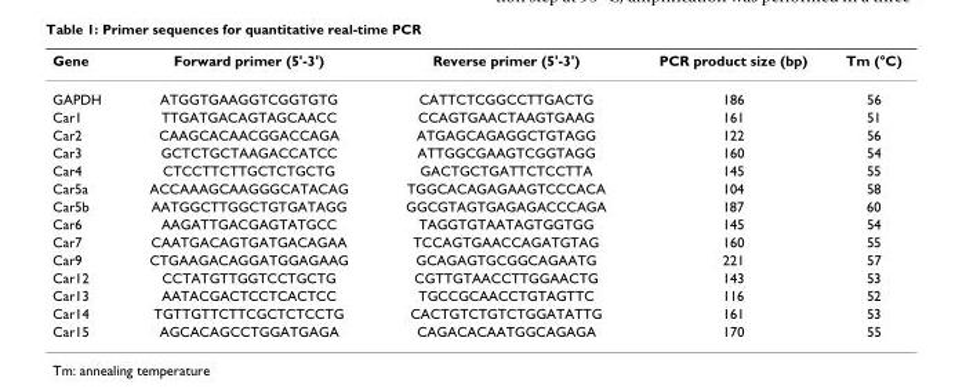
<table><thead><tr><td>Gene</td><td>Forward primer (5&#x27;-3&#x27;)</td><td>Reverse primer (5&#x27;-3&#x27;)</td><td>PCR product size (bp)</td><td>Tm (°C)</td></tr></thead><tbody><tr><td>GAPDH</td><td>ATGGTGAAGGTCGGTGTG</td><td>CATTCTCGGCCTTGACTG</td><td>186</td><td>56</td></tr><tr><td>Car1</td><td>TTGATGACAGTAGCAACC</td><td>CCAGTGAACTAAGTGAAG</td><td>161</td><td>51</td></tr><tr><td>Car2</td><td>CAAGCACAACGGACCAGA</td><td>ATGAGCAGAGGCTGTAGG</td><td>122</td><td>56</td></tr><tr><td>Car3</td><td>GCTCTGCTAAGACCATCC</td><td>ATTGGCGAAGTCGGTAGG</td><td>160</td><td>54</td></tr><tr><td>Car4</td><td>CTCCTTCTTGCTCTGCTG</td><td>GACTGCTGATTCTCCTTA</td><td>145</td><td>55</td></tr><tr><td>Car5a</td><td>ACCAAAGCAAGGGCATACAG</td><td>TGGCACAGAGAAGTCCCACA</td><td>104</td><td>58</td></tr><tr><td>Car5b</td><td>AATGGCTTGGCTGTGATAGG</td><td>GGCGTAGTGAGAGACCCAGA</td><td>187</td><td>60</td></tr><tr><td>Car6</td><td>AAGATTGACGAGTATGCC</td><td>TAGGTGTAATAGTGGTGG</td><td>145</td><td>54</td></tr><tr><td>Car7</td><td>CAATGACAGTGATGACAGAA</td><td>TCCAGTGAACCAGATGTAG</td><td>160</td><td>55</td></tr><tr><td>Car9</td><td>CTGAAGACAGGATGGAGAAG</td><td>GCAGAGTGCGGCAGAATG</td><td>221</td><td>57</td></tr><tr><td>Car12</td><td>CCTATGTTGGTCCTGCTG</td><td>CGTTGTAACCTTGGAACTG</td><td>143</td><td>53</td></tr><tr><td>Car13</td><td>AATACGACTCCTCACTCC</td><td>TGCCGCAACCTGTAGTTC</td><td>116</td><td>52</td></tr><tr><td>Car14</td><td>TGTTGTTCTTCGCTCTCCTG</td><td>CACTGTCTGTCTGGATATTG</td><td>161</td><td>53</td></tr><tr><td>Car15</td><td>AGCACAGCCTGGATGAGA</td><td>CAGACACAATGGCAGAGA</td><td>170</td><td>55</td></tr></tbody></table>